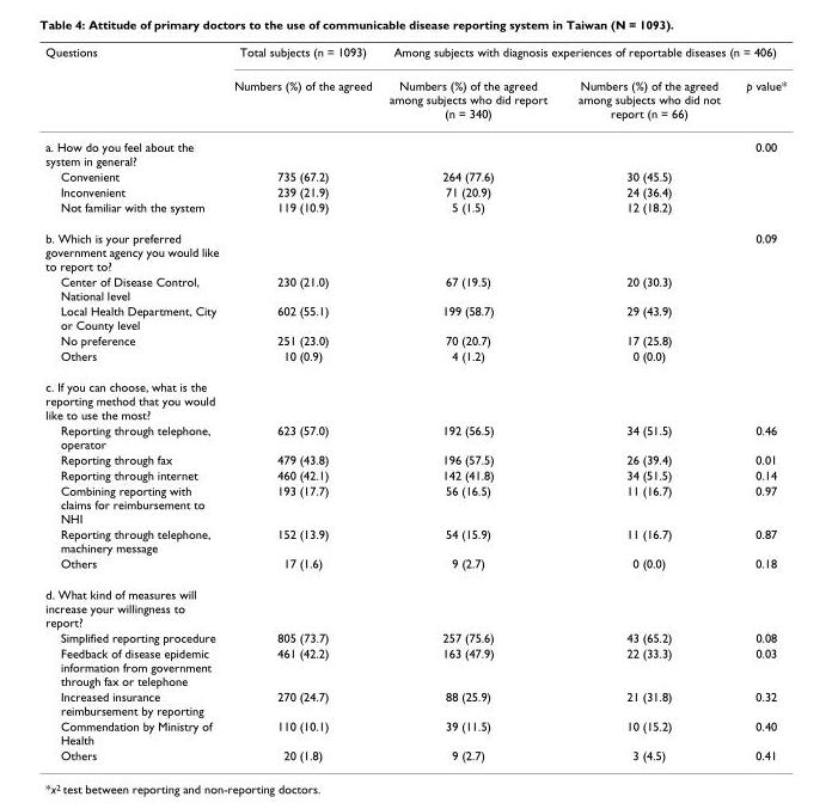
<table><thead><tr><td rowspan="2">Questions</td><td rowspan="2">Total subjects (n = 1093) Numbers (%) of the agreed</td><td colspan="3">Among subjects with diagnosis experiences of reportable diseases (n = 406)</td></tr><tr><td>Numbers (%) of the agreed among subjects who did report (n = 340)</td><td>Numbers (%) of the agreed among subjects who did not report (n = 66)</td><td>p value*</td></tr></thead><tbody><tr><td>a. How do you feel about the system in general?</td><td></td><td></td><td></td><td>0.00</td></tr><tr><td>Convenient</td><td>735 (67.2)</td><td>264 (77.6)</td><td>30 (45.5)</td><td></td></tr><tr><td>Inconvenient</td><td>239 (21.9)</td><td>71 (20.9)</td><td>24 (36.4)</td><td></td></tr><tr><td>Not familiar with the system</td><td>119 (10.9)</td><td>5 (1.5)</td><td>12 (18.2)</td><td></td></tr><tr><td>b. Which is your preferred government agency you would like to report to?</td><td></td><td></td><td></td><td>0.09</td></tr><tr><td>Center of Disease Control, National level</td><td>230 (21.0)</td><td>67 (19.5)</td><td>20 (30.3)</td><td></td></tr><tr><td>Local Health Department, City or County level</td><td>602 (55.1)</td><td>199 (58.7)</td><td>29 (43.9)</td><td></td></tr><tr><td>No preference</td><td>251 (23.0)</td><td>70 (20.7)</td><td>17 (25.8)</td><td></td></tr><tr><td>Others</td><td>10 (0.9)</td><td>4 (1.2)</td><td>0 (0.0)</td><td></td></tr><tr><td colspan="5">c. If you can choose, what is the reporting method that you would like to use the most?</td></tr><tr><td>Reporting through telephone, operator</td><td>623 (57.0)</td><td>192 (56.5)</td><td>34 (51.5)</td><td>0.46</td></tr><tr><td>Reporting through fax</td><td>479 (43.8)</td><td>196 (57.5)</td><td>26 (39.4)</td><td>0.01</td></tr><tr><td>Reporting through internet</td><td>460 (42.1)</td><td>142 (41.8)</td><td>34 (51.5)</td><td>0.14</td></tr><tr><td>Combining reporting with claims for reimbursement to NHI</td><td>193 (17.7)</td><td>56 (16.5)</td><td>11 (16.7)</td><td>0.97</td></tr><tr><td>Reporting through telephone, machinery message</td><td>152 (13.9)</td><td>54 (15.9)</td><td>11 (16.7)</td><td>0.87</td></tr><tr><td>Others</td><td>17 (1.6)</td><td>9 (2.7)</td><td>0 (0.0)</td><td>0.18</td></tr><tr><td colspan="5">d. What kind of measures will increase your willingness to report?</td></tr><tr><td>Simplified reporting procedure</td><td>805 (73.7)</td><td>257 (75.6)</td><td>43 (65.2)</td><td>0.08</td></tr><tr><td>Feedback of disease epidemic information from government through fax or telephone</td><td>461 (42.2)</td><td>163 (47.9)</td><td>22 (33.3)</td><td>0.03</td></tr><tr><td>Increased insurance reimbursement by reporting</td><td>270 (24.7)</td><td>88 (25.9)</td><td>21 (31.8)</td><td>0.32</td></tr><tr><td>Commendation by Ministry of Health</td><td>110 (10.1)</td><td>39 (11.5)</td><td>10 (15.2)</td><td>0.40</td></tr><tr><td>Others</td><td>20 (1.8)</td><td>9 (2.7)</td><td>3 (4.5)</td><td>0.41</td></tr></tbody></table>